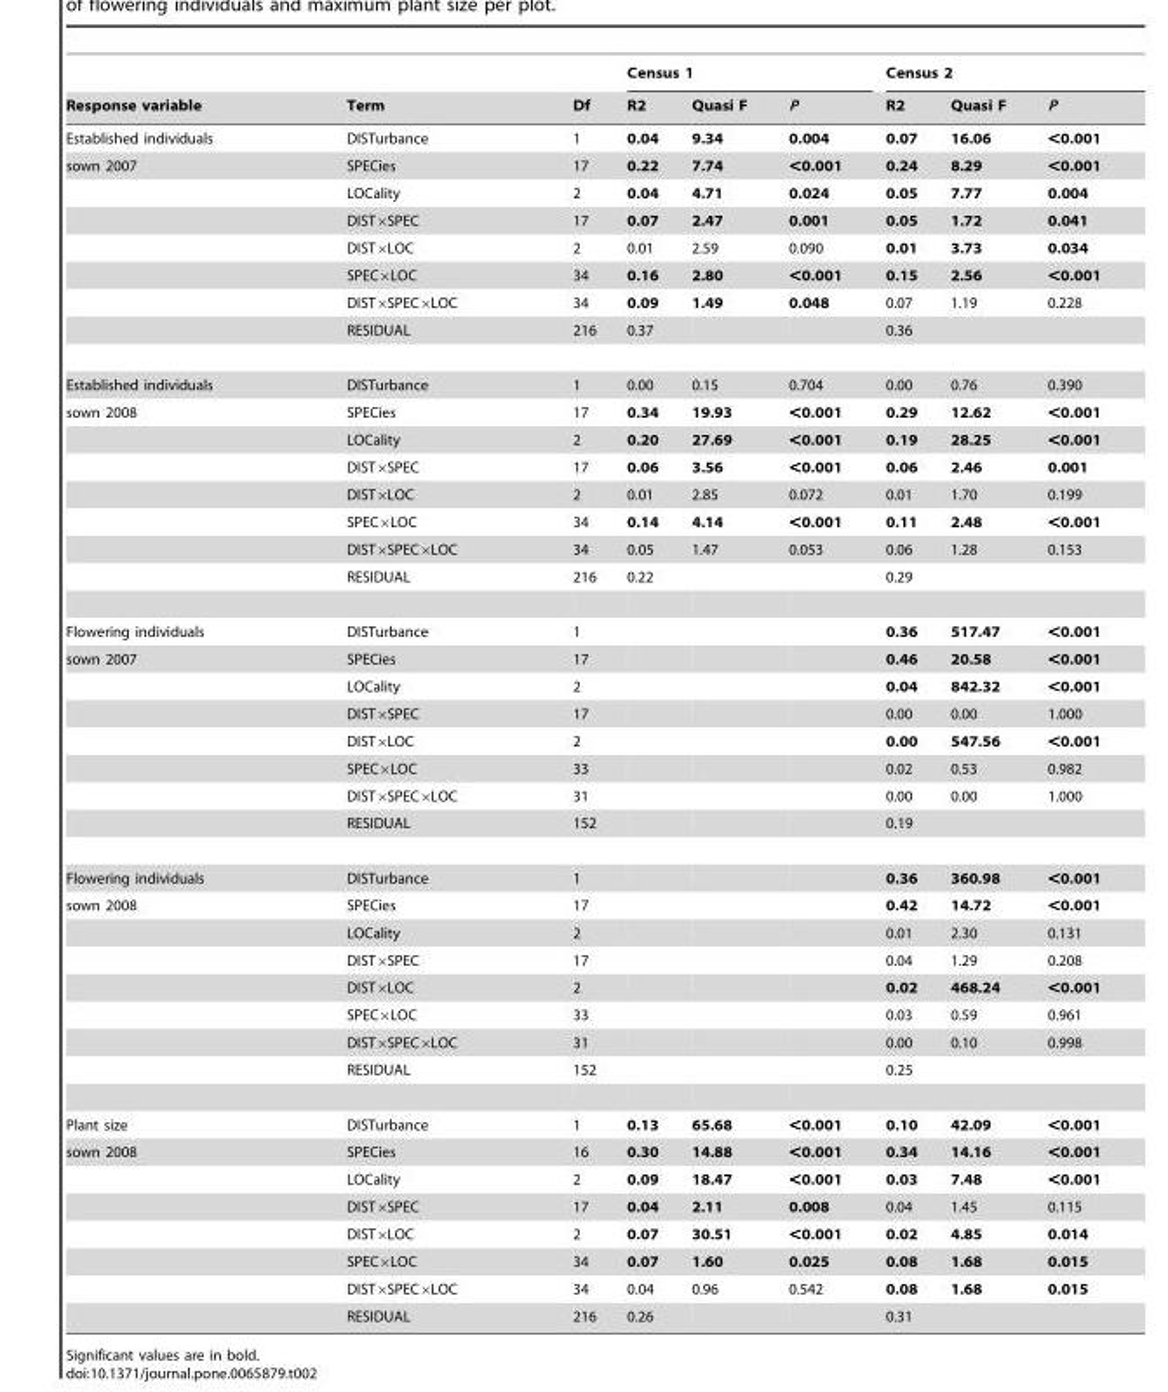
<table><thead><tr><td rowspan="2">Response variable</td><td rowspan="2">Term</td><td rowspan="2">Df</td><td colspan="3">Census 1</td><td colspan="3">Census 2</td></tr><tr><td>R2</td><td>Quasi F</td><td>P</td><td>R2</td><td>Quasi F</td><td>P</td></tr></thead><tbody><tr><td>Established individuals</td><td>DISTurbance</td><td>1</td><td>0.04</td><td>9.34</td><td>0.004</td><td>0.07</td><td>16.06</td><td>&lt;0.001</td></tr><tr><td rowspan="7">sown 2007</td><td>SPECies</td><td>17</td><td>0.22</td><td>7.74</td><td>&lt;0.001</td><td>0.24</td><td>8.29</td><td>&lt;0.001</td></tr><tr><td>LOCality</td><td>2</td><td>0.04</td><td>4.71</td><td>0.024</td><td>0.05</td><td>7.77</td><td>0.004</td></tr><tr><td>DIST×SPEC</td><td>17</td><td>0.07</td><td>2.47</td><td>0.001</td><td>0.05</td><td>1.72</td><td>0.041</td></tr><tr><td>DIST×LOC</td><td>2</td><td>0.01</td><td>2.59</td><td>0.090</td><td>0.01</td><td>3.73</td><td>0.034</td></tr><tr><td>SPEC×LOC</td><td>34</td><td>0.16</td><td>2.80</td><td>&lt;0.001</td><td>0.15</td><td>2.56</td><td>&lt;0.001</td></tr><tr><td>DIST×SPEC×LOC</td><td>34</td><td>0.09</td><td>1.49</td><td>0.048</td><td>0.07</td><td>1.19</td><td>0.228</td></tr><tr><td>RESIDUAL</td><td>216</td><td>0.37</td><td></td><td></td><td>0.36</td><td></td><td></td></tr><tr><td>Established individuals</td><td>DISTurbance</td><td>1</td><td>0.00</td><td>0.15</td><td>0.704</td><td>0.00</td><td>0.76</td><td>0.390</td></tr><tr><td rowspan="7">sown 2008</td><td>SPECies</td><td>17</td><td>0.34</td><td>19.93</td><td>&lt;0.001</td><td>0.29</td><td>12.62</td><td>&lt;0.001</td></tr><tr><td>LOCality</td><td>2</td><td>0.20</td><td>27.69</td><td>&lt;0.001</td><td>0.19</td><td>28.25</td><td>&lt;0.001</td></tr><tr><td>DIST×SPEC</td><td>17</td><td>0.06</td><td>3.56</td><td>&lt;0.001</td><td>0.06</td><td>2.46</td><td>0.001</td></tr><tr><td>DIST×LOC</td><td>2</td><td>0.01</td><td>2.85</td><td>0.072</td><td>0.01</td><td>1.70</td><td>0.199</td></tr><tr><td>SPEC×LOC</td><td>34</td><td>0.14</td><td>4.14</td><td>&lt;0.001</td><td>0.11</td><td>2.48</td><td>&lt;0.001</td></tr><tr><td>DIST×SPEC×LOC</td><td>34</td><td>0.05</td><td>1.47</td><td>0.053</td><td>0.06</td><td>1.28</td><td>0.153</td></tr><tr><td>RESIDUAL</td><td>216</td><td>0.22</td><td></td><td></td><td>0.29</td><td></td><td></td></tr><tr><td>Flowering individuals</td><td>DISTurbance</td><td>1</td><td></td><td></td><td></td><td>0.36</td><td>517.47</td><td>&lt;0.001</td></tr><tr><td rowspan="7">sown 2007</td><td>SPECies</td><td>17</td><td></td><td></td><td></td><td>0.46</td><td>20.58</td><td>&lt;0.001</td></tr><tr><td>LOCality</td><td>2</td><td></td><td></td><td></td><td>0.04</td><td>842.32</td><td>&lt;0.001</td></tr><tr><td>DIST×SPEC</td><td>17</td><td></td><td></td><td></td><td>0.00</td><td>0.00</td><td>1.000</td></tr><tr><td>DIST×LOC</td><td>2</td><td></td><td></td><td></td><td>0.00</td><td>547.56</td><td>&lt;0.001</td></tr><tr><td>SPEC×LOC</td><td>33</td><td></td><td></td><td></td><td>0.02</td><td>0.53</td><td>0.982</td></tr><tr><td>DIST×SPEC×LOC</td><td>31</td><td></td><td></td><td></td><td>0.00</td><td>0.00</td><td>1.000</td></tr><tr><td>RESIDUAL</td><td>152</td><td></td><td></td><td></td><td>0.19</td><td></td><td></td></tr><tr><td>Flowering individuals</td><td>DISTurbance</td><td>1</td><td></td><td></td><td></td><td>0.36</td><td>360.98</td><td>&lt;0.001</td></tr><tr><td rowspan="7">sown 2008</td><td>SPECies</td><td>17</td><td></td><td></td><td></td><td>0.42</td><td>14.72</td><td>&lt;0.001</td></tr><tr><td>LOCality</td><td>2</td><td></td><td></td><td></td><td>0.01</td><td>2.30</td><td>0.131</td></tr><tr><td>DIST×SPEC</td><td>17</td><td></td><td></td><td></td><td>0.04</td><td>1.29</td><td>0.208</td></tr><tr><td>DIST×LOC</td><td>2</td><td></td><td></td><td></td><td>0.02</td><td>468.24</td><td>&lt;0.001</td></tr><tr><td>SPEC×LOC</td><td>33</td><td></td><td></td><td></td><td>0.03</td><td>0.59</td><td>0.961</td></tr><tr><td>DIST×SPEC×LOC</td><td>31</td><td></td><td></td><td></td><td>0.00</td><td>0.10</td><td>0.998</td></tr><tr><td>RESIDUAL</td><td>152</td><td></td><td></td><td></td><td>0.25</td><td></td><td></td></tr><tr><td>Plant size</td><td>DISTurbance</td><td>1</td><td>0.13</td><td>65.68</td><td>&lt;0.001</td><td>0.10</td><td>42.09</td><td>&lt;0.001</td></tr><tr><td rowspan="7">sown 2008</td><td>SPECies</td><td>16</td><td>0.30</td><td>14.88</td><td>&lt;0.001</td><td>0.34</td><td>14.16</td><td>&lt;0.001</td></tr><tr><td>LOCality</td><td>2</td><td>0.09</td><td>18.47</td><td>&lt;0.001</td><td>0.03</td><td>7.48</td><td>&lt;0.001</td></tr><tr><td>DIST×SPEC</td><td>17</td><td>0.04</td><td>2.11</td><td>0.008</td><td>0.04</td><td>1.45</td><td>0.115</td></tr><tr><td>DIST×LOC</td><td>2</td><td>0.07</td><td>30.51</td><td>&lt;0.001</td><td>0.02</td><td>4.85</td><td>0.014</td></tr><tr><td>SPEC×LOC</td><td>34</td><td>0.07</td><td>1.60</td><td>0.025</td><td>0.08</td><td>1.68</td><td>0.015</td></tr><tr><td>DIST×SPEC×LOC</td><td>34</td><td>0.04</td><td>0.96</td><td>0.542</td><td>0.08</td><td>1.68</td><td>0.015</td></tr><tr><td>RESIDUAL</td><td>216</td><td>0.26</td><td></td><td></td><td>0.31</td><td></td><td></td></tr></tbody></table>